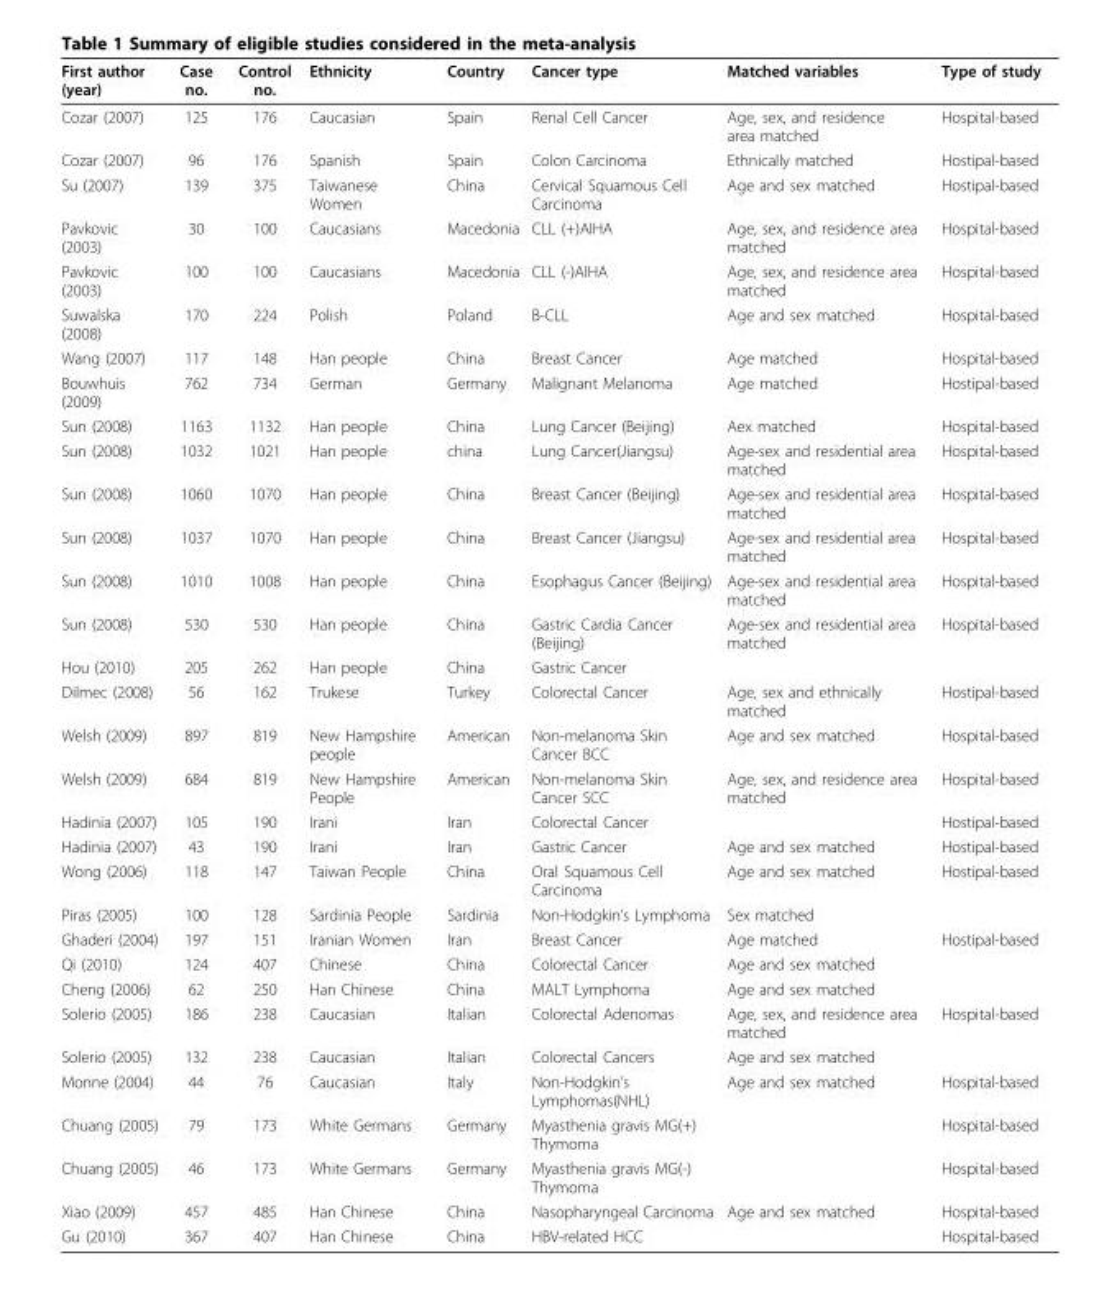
<table><thead><tr><td>First author (year)</td><td>Case no.</td><td>Control no.</td><td>Ethnicity</td><td>Country</td><td>Cancer type</td><td>Matched variables</td><td>Type of study</td></tr></thead><tbody><tr><td>Cozar (2007)</td><td>125</td><td>176</td><td>Caucasian</td><td>Spain</td><td>Renal Cell Cancer</td><td>Age, sex, and residence area matched</td><td>Hospital-based</td></tr><tr><td>Cozar (2007)</td><td>96</td><td>176</td><td>Spanish</td><td>Spain</td><td>Colon Carcinoma</td><td>Ethnically matched</td><td>Hostipal-based</td></tr><tr><td>Su (2007)</td><td>139</td><td>375</td><td>Taiwanese Women</td><td>China</td><td>Cervical Squamous Cell Carcinoma</td><td>Age and sex matched</td><td>Hostipal-based</td></tr><tr><td>Pavkovic (2003)</td><td>30</td><td>100</td><td>Caucasians</td><td>Macedonia</td><td>CLL (+)AIHA</td><td>Age, sex, and residence area matched</td><td>Hospital-based</td></tr><tr><td>Pavkovic (2003)</td><td>100</td><td>100</td><td>Caucasians</td><td>Macedonia</td><td>CLL (-)AIHA</td><td>Age, sex, and residence area matched</td><td>Hospital-based</td></tr><tr><td>Suwalska (2008)</td><td>170</td><td>224</td><td>Polish</td><td>Poland</td><td>B-CLL</td><td>Age and sex matched</td><td>Hospital-based</td></tr><tr><td>Wang (2007)</td><td>117</td><td>148</td><td>Han people</td><td>China</td><td>Breast Cancer</td><td>Age matched</td><td>Hospital-based</td></tr><tr><td>Bouwhuis (2009)</td><td>762</td><td>734</td><td>German</td><td>Germany</td><td>Malignant Melanoma</td><td>Age matched</td><td>Hostipal-based</td></tr><tr><td>Sun (2008)</td><td>1163</td><td>1132</td><td>Han people</td><td>China</td><td>Lung Cancer (Beijing)</td><td>Aex matched</td><td>Hospital-based</td></tr><tr><td>Sun (2008)</td><td>1032</td><td>1021</td><td>Han people</td><td>china</td><td>Lung Cancer(Jiangsu)</td><td>Age-sex and residential area matched</td><td>Hospital-based</td></tr><tr><td>Sun (2008)</td><td>1060</td><td>1070</td><td>Han people</td><td>China</td><td>Breast Cancer (Beijing)</td><td>Age-sex and residential area matched</td><td>Hospital-based</td></tr><tr><td>Sun (2008)</td><td>1037</td><td>1070</td><td>Han people</td><td>China</td><td>Breast Cancer (Jiangsu)</td><td>Age-sex and residential area matched</td><td>Hospital-based</td></tr><tr><td>Sun (2008)</td><td>1010</td><td>1008</td><td>Han people</td><td>China</td><td>Esophagus Cancer (Beijing)</td><td>Age-sex and residential area matched</td><td>Hospital-based</td></tr><tr><td>Sun (2008)</td><td>530</td><td>530</td><td>Han people</td><td>China</td><td>Gastric Cardia Cancer (Beijing)</td><td>Age-sex and residential area matched</td><td>Hospital-based</td></tr><tr><td>Hou (2010)</td><td>205</td><td>262</td><td>Han people</td><td>China</td><td>Gastric Cancer</td><td></td><td></td></tr><tr><td>Dilmec (2008)</td><td>56</td><td>162</td><td>Trukese</td><td>Turkey</td><td>Colorectal Cancer</td><td>Age, sex and ethnically matched</td><td>Hostipal-based</td></tr><tr><td>Welsh (2009)</td><td>897</td><td>819</td><td>New Hampshire people</td><td>American</td><td>Non-melanoma Skin Cancer BCC</td><td>Age and sex matched</td><td>Hospital-based</td></tr><tr><td>Welsh (2009)</td><td>684</td><td>819</td><td>New Hampshire People</td><td>American</td><td>Non-melanoma Skin Cancer SCC</td><td>Age, sex, and residence area matched</td><td>Hospital-based</td></tr><tr><td>Hadinia (2007)</td><td>105</td><td>190</td><td>Irani</td><td>Iran</td><td>Colorectal Cancer</td><td></td><td>Hostipal-based</td></tr><tr><td>Hadinia (2007)</td><td>43</td><td>190</td><td>Irani</td><td>Iran</td><td>Gastric Cancer</td><td>Age and sex matched</td><td>Hostipal-based</td></tr><tr><td>Wong (2006)</td><td>118</td><td>147</td><td>Taiwan People</td><td>China</td><td>Oral Squamous Cell Carcinoma</td><td>Age and sex matched</td><td>Hostipal-based</td></tr><tr><td>Piras (2005)</td><td>100</td><td>128</td><td>Sardinia People</td><td>Sardinia</td><td>Non-Hodgkin’s Lymphoma</td><td>Sex matched</td><td></td></tr><tr><td>Ghaderi (2004)</td><td>197</td><td>151</td><td>Iranian Women</td><td>Iran</td><td>Breast Cancer</td><td>Age matched</td><td>Hostipal-based</td></tr><tr><td>Qi (2010)</td><td>124</td><td>407</td><td>Chinese</td><td>China</td><td>Colorectal Cancer</td><td>Age and sex matched</td><td></td></tr><tr><td>Cheng (2006)</td><td>62</td><td>250</td><td>Han Chinese</td><td>China</td><td>MALT Lymphoma</td><td>Age and sex matched</td><td></td></tr><tr><td>Solerio (2005)</td><td>186</td><td>238</td><td>Caucasian</td><td>Italian</td><td>Colorectal Adenomas</td><td>Age, sex, and residence area matched</td><td>Hospital-based</td></tr><tr><td>Solerio (2005)</td><td>132</td><td>238</td><td>Caucasian</td><td>Italian</td><td>Colorectal Cancers</td><td>Age and sex matched</td><td></td></tr><tr><td>Monne (2004)</td><td>44</td><td>76</td><td>Caucasian</td><td>Italy</td><td>Non-Hodgkin’s Lymphomas(NHL)</td><td>Age and sex matched</td><td>Hospital-based</td></tr><tr><td>Chuang (2005)</td><td>79</td><td>173</td><td>White Germans</td><td>Germany</td><td>Myasthenia gravis MG(+) Thymoma</td><td></td><td>Hospital-based</td></tr><tr><td>Chuang (2005)</td><td>46</td><td>173</td><td>White Germans</td><td>Germany</td><td>Myasthenia gravis MG(-) Thymoma</td><td></td><td>Hospital-based</td></tr><tr><td>Xiao (2009)</td><td>457</td><td>485</td><td>Han Chinese</td><td>China</td><td>Nasopharyngeal Carcinoma</td><td>Age and sex matched</td><td>Hospital-based</td></tr><tr><td>Gu (2010)</td><td>367</td><td>407</td><td>Han Chinese</td><td>China</td><td>HBV-related HCC</td><td></td><td>Hospital-based</td></tr></tbody></table>